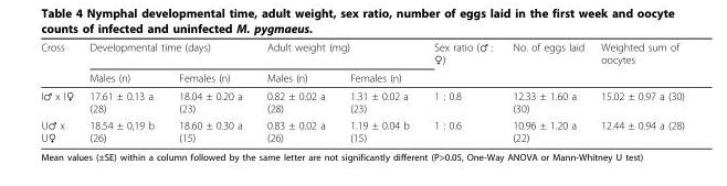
<table><thead><tr><td rowspan="2">Cross</td><td colspan="2">Developmental time (days)</td><td colspan="2">Adult weight (mg)</td><td rowspan="2">Sex ratio (♂ : ♀)</td><td rowspan="2">No. of eggs laid</td><td rowspan="2">Weighted sum of oocytes</td></tr><tr><td>Males (n)</td><td>Females (n)</td><td>Males (n)</td><td>Females (n)</td></tr></thead><tbody><tr><td>I♂ x I♀</td><td>17.61 ± 0.13 a (28)</td><td>18.04 ± 0.20 a (23)</td><td>0.82 ± 0.02 a (28)</td><td>1.31 ± 0.02 a (23)</td><td>1 : 0.8</td><td>12.33 ± 1.60 a (30)</td><td>15.02 ± 0.97 a (30)</td></tr><tr><td>U♂ x U♀</td><td>18.54 ± 0,19 b (26)</td><td>18.60 ± 0.30 a (15)</td><td>0.83 ± 0.02 a (26)</td><td>1.19 ± 0.04 b (15)</td><td>1 : 0.6</td><td>10.96 ± 1.20 a (22)</td><td>12.44 ± 0.94 a (28)</td></tr></tbody></table>